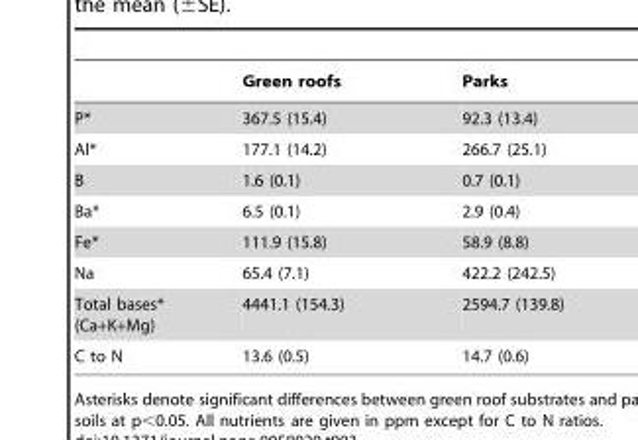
<table><thead><tr><td></td><td>Green roofs</td><td>Parks</td></tr></thead><tbody><tr><td>P*</td><td>367.5 (15.4)</td><td>92.3 (13.4)</td></tr><tr><td>Al*</td><td>177.1 (14.2)</td><td>266.7 (25.1)</td></tr><tr><td>B</td><td>1.6 (0.1)</td><td>0.7 (0.1)</td></tr><tr><td>Ba*</td><td>6.5 (0.1)</td><td>2.9 (0.4)</td></tr><tr><td>Fe*</td><td>111.9 (15.8)</td><td>58.9 (8.8)</td></tr><tr><td>Na</td><td>65.4 (7.1)</td><td>422.2 (242.5)</td></tr><tr><td>Total bases* (Ca+K+Mg)</td><td>4441.1 (154.3)</td><td>2594.7 (139.8)</td></tr><tr><td>C to N</td><td>13.6 (0.5)</td><td>14.7 (0.6)</td></tr></tbody></table>